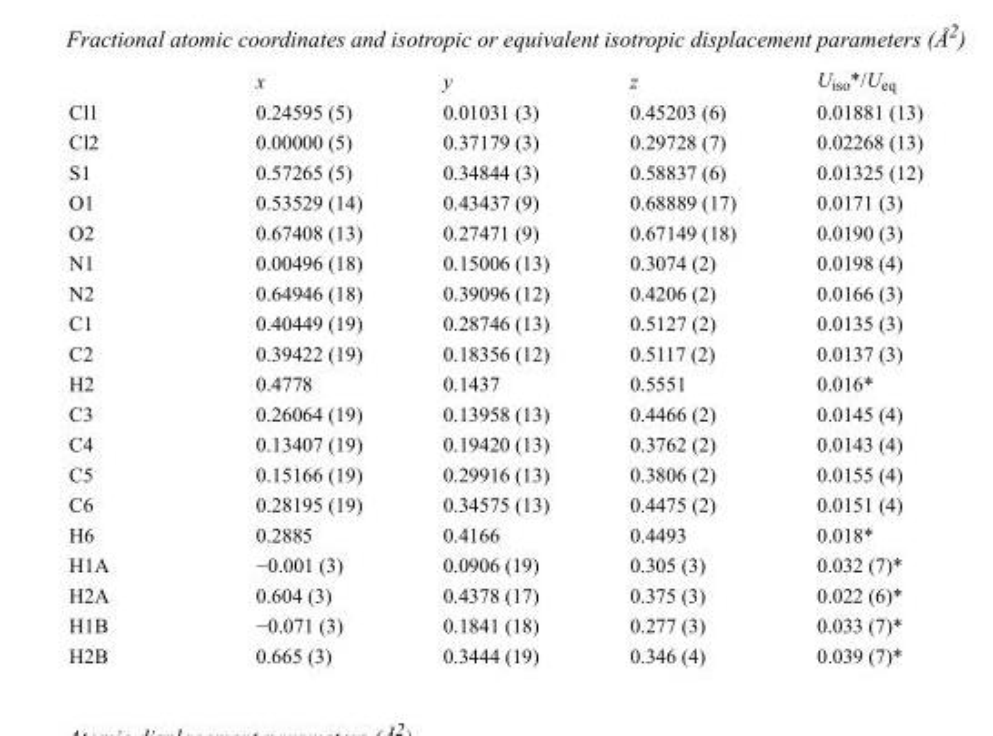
<table><thead><tr><td></td><td>x</td><td>y</td><td>z</td><td>U<sub>iso</sub>*/U<sub>eq</sub></td></tr></thead><tbody><tr><td>Cl1</td><td>0.24595 (5)</td><td>0.01031 (3)</td><td>0.45203 (6)</td><td>0.01881 (13)</td></tr><tr><td>Cl2</td><td>0.00000 (5)</td><td>0.37179 (3)</td><td>0.29728 (7)</td><td>0.02268 (13)</td></tr><tr><td>S1</td><td>0.57265 (5)</td><td>0.34844 (3)</td><td>0.58837 (6)</td><td>0.01325 (12)</td></tr><tr><td>O1</td><td>0.53529 (14)</td><td>0.43437 (9)</td><td>0.68889 (17)</td><td>0.0171 (3)</td></tr><tr><td>O2</td><td>0.67408 (13)</td><td>0.27471 (9)</td><td>0.67149 (18)</td><td>0.0190 (3)</td></tr><tr><td>N1</td><td>0.00496 (18)</td><td>0.15006 (13)</td><td>0.3074 (2)</td><td>0.0198 (4)</td></tr><tr><td>N2</td><td>0.64946 (18)</td><td>0.39096 (12)</td><td>0.4206 (2)</td><td>0.0166 (3)</td></tr><tr><td>C1</td><td>0.40449 (19)</td><td>0.28746 (13)</td><td>0.5127 (2)</td><td>0.0135 (3)</td></tr><tr><td>C2</td><td>0.39422 (19)</td><td>0.18356 (12)</td><td>0.5117 (2)</td><td>0.0137 (3)</td></tr><tr><td>H2</td><td>0.4778</td><td>0.1437</td><td>0.5551</td><td>0.016*</td></tr><tr><td>C3</td><td>0.26064 (19)</td><td>0.13958 (13)</td><td>0.4466 (2)</td><td>0.0145 (4)</td></tr><tr><td>C4</td><td>0.13407 (19)</td><td>0.19420 (13)</td><td>0.3762 (2)</td><td>0.0143 (4)</td></tr><tr><td>C5</td><td>0.15166 (19)</td><td>0.29916 (13)</td><td>0.3806 (2)</td><td>0.0155 (4)</td></tr><tr><td>C6</td><td>0.28195 (19)</td><td>0.34575 (13)</td><td>0.4475 (2)</td><td>0.0151 (4)</td></tr><tr><td>H6</td><td>0.2885</td><td>0.4166</td><td>0.4493</td><td>0.018*</td></tr><tr><td>H1A</td><td>−0.001 (3)</td><td>0.0906 (19)</td><td>0.305 (3)</td><td>0.032 (7)*</td></tr><tr><td>H2A</td><td>0.604 (3)</td><td>0.4378 (17)</td><td>0.375 (3)</td><td>0.022 (6)*</td></tr><tr><td>H1B</td><td>−0.071 (3)</td><td>0.1841 (18)</td><td>0.277 (3)</td><td>0.033 (7)*</td></tr><tr><td>H2B</td><td>0.665 (3)</td><td>0.3444 (19)</td><td>0.346 (4)</td><td>0.039 (7)*</td></tr></tbody></table>